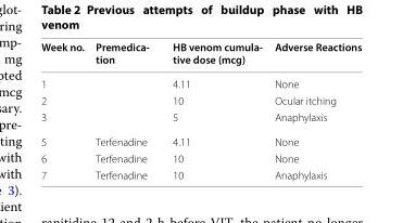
<table><thead><tr><td>Week no.</td><td>Premedica- tion</td><td>HB venom cumula- tive dose (mcg)</td><td>Adverse Reactions</td></tr></thead><tbody><tr><td>1</td><td></td><td>4.11</td><td>None</td></tr><tr><td>2</td><td></td><td>10</td><td>Ocular itching</td></tr><tr><td>3</td><td></td><td>5</td><td>Anaphylaxis</td></tr><tr><td>5</td><td>Terfenadine</td><td>4.11</td><td>None</td></tr><tr><td>6</td><td>Terfenadine</td><td>10</td><td>None</td></tr><tr><td>7</td><td>Terfenadine</td><td>10</td><td>Anaphylaxis</td></tr></tbody></table>